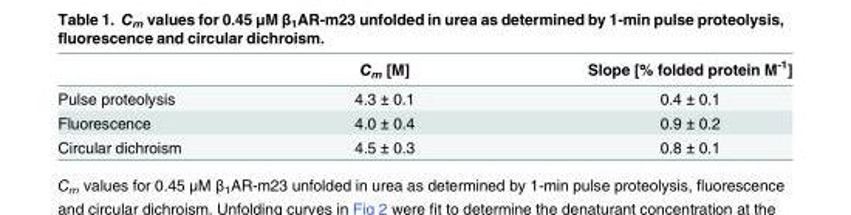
<table><thead><tr><td></td><td>C<sub>m</sub> [M]</td><td>Slope [% folded protein M<sup>-1</sup>]</td></tr></thead><tbody><tr><td>Pulse proteolysis</td><td>4.3 ± 0.1</td><td>0.4 ± 0.1</td></tr><tr><td>Fluorescence</td><td>4.0 ± 0.4</td><td>0.9 ± 0.2</td></tr><tr><td>Circular dichroism</td><td>4.5 ± 0.3</td><td>0.8 ± 0.1</td></tr></tbody></table>